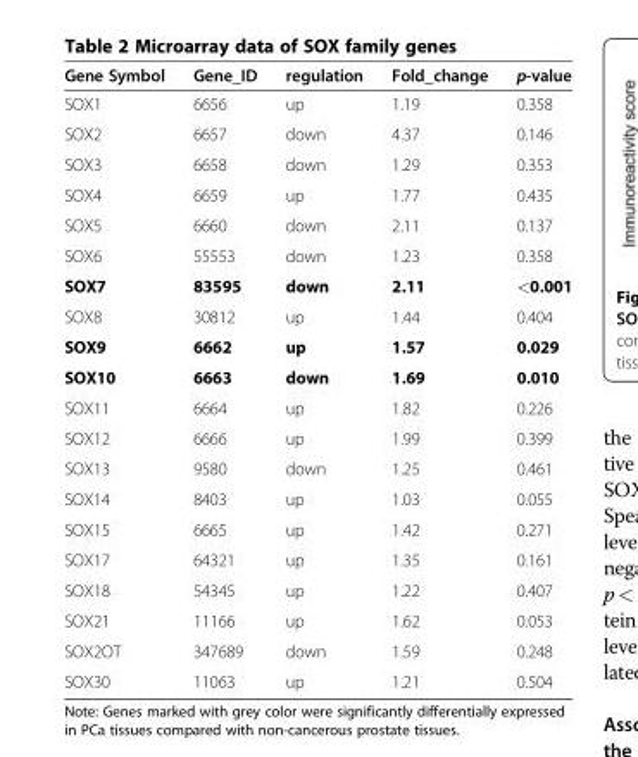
<table><thead><tr><td>Gene Symbol</td><td>Gene_ID</td><td>regulation</td><td>Fold_change</td><td>p-value</td></tr></thead><tbody><tr><td>SOX1</td><td>6656</td><td>up</td><td>1.19</td><td>0.358</td></tr><tr><td>SOX2</td><td>6657</td><td>down</td><td>4.37</td><td>0.146</td></tr><tr><td>SOX3</td><td>6658</td><td>down</td><td>1.29</td><td>0.353</td></tr><tr><td>SOX4</td><td>6659</td><td>up</td><td>1.77</td><td>0.435</td></tr><tr><td>SOX5</td><td>6660</td><td>down</td><td>2.11</td><td>0.137</td></tr><tr><td>SOX6</td><td>55553</td><td>down</td><td>1.23</td><td>0.358</td></tr><tr><td>SOX7</td><td>83595</td><td>down</td><td>2.11</td><td>&lt;0.001</td></tr><tr><td>SOX8</td><td>30812</td><td>up</td><td>1.44</td><td>0.404</td></tr><tr><td>SOX9</td><td>6662</td><td>up</td><td>1.57</td><td>0.029</td></tr><tr><td>SOX10</td><td>6663</td><td>down</td><td>1.69</td><td>0.010</td></tr><tr><td>SOX11</td><td>6664</td><td>up</td><td>1.82</td><td>0.226</td></tr><tr><td>SOX12</td><td>6666</td><td>up</td><td>1.99</td><td>0.399</td></tr><tr><td>SOX13</td><td>9580</td><td>down</td><td>1.25</td><td>0.461</td></tr><tr><td>SOX14</td><td>8403</td><td>up</td><td>1.03</td><td>0.055</td></tr><tr><td>SOX15</td><td>6665</td><td>up</td><td>1.42</td><td>0.271</td></tr><tr><td>SOX17</td><td>64321</td><td>up</td><td>1.35</td><td>0.161</td></tr><tr><td>SOX18</td><td>54345</td><td>up</td><td>1.22</td><td>0.407</td></tr><tr><td>SOX21</td><td>11166</td><td>up</td><td>1.62</td><td>0.053</td></tr><tr><td>SOX2OT</td><td>347689</td><td>down</td><td>1.59</td><td>0.248</td></tr><tr><td>SOX30</td><td>11063</td><td>up</td><td>1.21</td><td>0.504</td></tr></tbody></table>